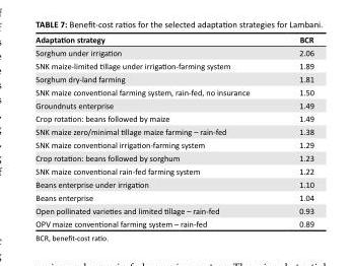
<table><thead><tr><td>Adaptation strategy</td><td>BCR</td></tr></thead><tbody><tr><td>Sorghum under irrigation</td><td>2.06</td></tr><tr><td>SNK maize-limited tillage under irrigation-farming system</td><td>1.89</td></tr><tr><td>Sorghum dry-land farming</td><td>1.81</td></tr><tr><td>SNK maize conventional farming system, rain-fed, no insurance</td><td>1.50</td></tr><tr><td>Groundnuts enterprise</td><td>1.49</td></tr><tr><td>Crop rotation: beans followed by maize</td><td>1.49</td></tr><tr><td>SNK maize zero/minimal tillage maize farming – rain-fed</td><td>1.38</td></tr><tr><td>SNK maize conventional irrigation-farming system</td><td>1.29</td></tr><tr><td>Crop rotation: beans followed by sorghum</td><td>1.23</td></tr><tr><td>SNK maize conventional rain-fed farming system</td><td>1.22</td></tr><tr><td>Beans enterprise under irrigation</td><td>1.10</td></tr><tr><td>Beans enterprise</td><td>1.04</td></tr><tr><td>Open pollinated varieties and limited tillage – rain-fed</td><td>0.93</td></tr><tr><td>OPV maize conventional farming system – rain-fed</td><td>0.89</td></tr></tbody></table>